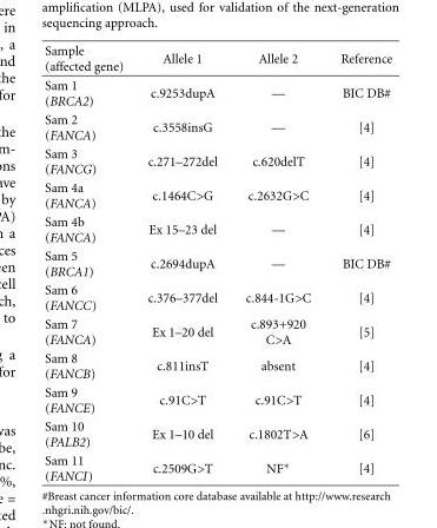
<table><thead><tr><td>Sample (affected gene)</td><td>Allele 1</td><td>Allele 2</td><td>Reference</td></tr></thead><tbody><tr><td>Sam 1 (BRCA2)</td><td>c.9253dupA</td><td>—</td><td>BIC DB#</td></tr><tr><td>Sam 2 (FANCA)</td><td>c.3558insG</td><td>—</td><td>[4]</td></tr><tr><td>Sam 3 (FANCG)</td><td>c.271–272del</td><td>c.620delT</td><td>[4]</td></tr><tr><td>Sam 4a (FANCA)</td><td>c.1464C&gt;G</td><td>c.2632G&gt;C</td><td>[4]</td></tr><tr><td>Sam 4b (FANCA)</td><td>Ex 15–23 del</td><td>—</td><td>[4]</td></tr><tr><td>Sam 5 (BRCA1)</td><td>c.2694dupA</td><td>—</td><td>BIC DB#</td></tr><tr><td>Sam 6 (FANCC)</td><td>c.376–377del</td><td>c.844-1G&gt;C</td><td>[4]</td></tr><tr><td>Sam 7 (FANCA)</td><td>Ex 1–20 del</td><td>c.893+920 C&gt;A</td><td>[5]</td></tr><tr><td>Sam 8 (FANCB)</td><td>c.811insT</td><td>absent</td><td>[4]</td></tr><tr><td>Sam 9 (FANCE)</td><td>c.91C&gt;T</td><td>c.91C&gt;T</td><td>[4]</td></tr><tr><td>Sam 10 (PALB2)</td><td>Ex 1–10 del</td><td>c.1802T&gt;A</td><td>[6]</td></tr><tr><td>Sam 11 (FANCI)</td><td>c.2509G&gt;T</td><td>NF∗</td><td>[4]</td></tr></tbody></table>